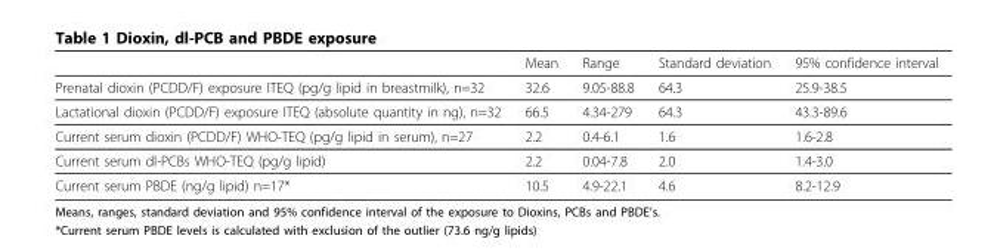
<table><thead><tr><td></td><td>Mean</td><td>Range</td><td>Standard deviation</td><td>95% confidence interval</td></tr></thead><tbody><tr><td>Prenatal dioxin (PCDD/F) exposure ITEQ (pg/g lipid in breastmilk), n=32</td><td>32.6</td><td>9.05-88.8</td><td>64.3</td><td>25.9-38.5</td></tr><tr><td>Lactational dioxin (PCDD/F) exposure ITEQ (absolute quantity in ng), n=32</td><td>66.5</td><td>4.34-279</td><td>64.3</td><td>43.3-89.6</td></tr><tr><td>Current serum dioxin (PCDD/F) WHO-TEQ (pg/g lipid in serum), n=27</td><td>2.2</td><td>0.4-6.1</td><td>1.6</td><td>1.6-2.8</td></tr><tr><td>Current serum dl-PCBs WHO-TEQ (pg/g lipid)</td><td>2.2</td><td>0.04-7.8</td><td>2.0</td><td>1.4-3.0</td></tr><tr><td>Current serum PBDE (ng/g lipid) n=17*</td><td>10.5</td><td>4.9-22.1</td><td>4.6</td><td>8.2-12.9</td></tr></tbody></table>